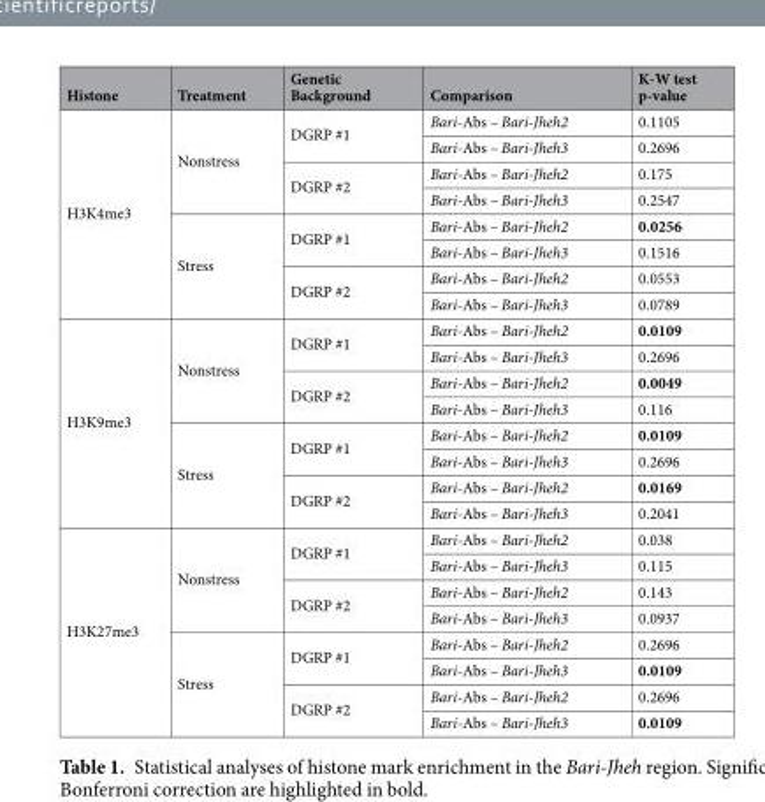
<table><thead><tr><td>Histone</td><td>Treatment</td><td>Genetic Background</td><td>Comparison</td><td>K-W test p-value</td></tr></thead><tbody><tr><td rowspan="8">H3K4me3</td><td rowspan="4">Nonstress</td><td rowspan="2">DGRP #1</td><td>Bari-Abs – Bari-Jheh2</td><td>0.1105</td></tr><tr><td>Bari-Abs – Bari-Jheh3</td><td>0.2696</td></tr><tr><td rowspan="2">DGRP #2</td><td>Bari-Abs – Bari-Jheh2</td><td>0.175</td></tr><tr><td>Bari-Abs – Bari-Jheh3</td><td>0.2547</td></tr><tr><td rowspan="4">Stress</td><td rowspan="2">DGRP #1</td><td>Bari-Abs – Bari-Jheh2</td><td>0.0256</td></tr><tr><td>Bari-Abs – Bari-Jheh3</td><td>0.1516</td></tr><tr><td rowspan="2">DGRP #2</td><td>Bari-Abs – Bari-Jheh2</td><td>0.0553</td></tr><tr><td>Bari-Abs – Bari-Jheh3</td><td>0.0789</td></tr><tr><td rowspan="8">H3K9me3</td><td rowspan="4">Nonstress</td><td rowspan="2">DGRP #1</td><td>Bari-Abs – Bari-Jheh2</td><td>0.0109</td></tr><tr><td>Bari-Abs – Bari-Jheh3</td><td>0.2696</td></tr><tr><td rowspan="2">DGRP #2</td><td>Bari-Abs – Bari-Jheh2</td><td>0.0049</td></tr><tr><td>Bari-Abs – Bari-Jheh3</td><td>0.116</td></tr><tr><td rowspan="4">Stress</td><td rowspan="2">DGRP #1</td><td>Bari-Abs – Bari-Jheh2</td><td>0.0109</td></tr><tr><td>Bari-Abs – Bari-Jheh3</td><td>0.2696</td></tr><tr><td rowspan="2">DGRP #2</td><td>Bari-Abs – Bari-Jheh2</td><td>0.0169</td></tr><tr><td>Bari-Abs – Bari-Jheh3</td><td>0.2041</td></tr><tr><td rowspan="8">H3K27me3</td><td rowspan="4">Nonstress</td><td rowspan="2">DGRP #1</td><td>Bari-Abs – Bari-Jheh2</td><td>0.038</td></tr><tr><td>Bari-Abs – Bari-Jheh3</td><td>0.115</td></tr><tr><td rowspan="2">DGRP #2</td><td>Bari-Abs – Bari-Jheh2</td><td>0.143</td></tr><tr><td>Bari-Abs – Bari-Jheh3</td><td>0.0937</td></tr><tr><td rowspan="4">Stress</td><td rowspan="2">DGRP #1</td><td>Bari-Abs – Bari-Jheh2</td><td>0.2696</td></tr><tr><td>Bari-Abs – Bari-Jheh3</td><td>0.0109</td></tr><tr><td rowspan="2">DGRP #2</td><td>Bari-Abs – Bari-Jheh2</td><td>0.2696</td></tr><tr><td>Bari-Abs – Bari-Jheh3</td><td>0.0109</td></tr></tbody></table>